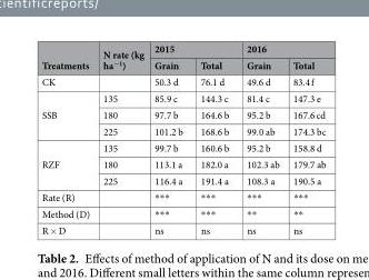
<table><thead><tr><td rowspan="2">Treatments</td><td rowspan="2">N rate (kg ha<sup>−1</sup>)</td><td colspan="2">2015</td><td colspan="2">2016</td></tr><tr><td>Grain</td><td>Total</td><td>Grain</td><td>Total</td></tr></thead><tbody><tr><td>CK</td><td></td><td>50.3 d</td><td>76.1 d</td><td>49.6 d</td><td>83.4 f</td></tr><tr><td rowspan="3">SSB</td><td>135</td><td>85.9 c</td><td>144.3 c</td><td>81.4 c</td><td>147.3 e</td></tr><tr><td>180</td><td>97.7 b</td><td>164.6 b</td><td>95.2 b</td><td>167.6 cd</td></tr><tr><td>225</td><td>101.2 b</td><td>168.6 b</td><td>99.0 ab</td><td>174.3 bc</td></tr><tr><td rowspan="3">RZF</td><td>135</td><td>99.7 b</td><td>160.6 b</td><td>95.2 b</td><td>158.8 d</td></tr><tr><td>180</td><td>113.1 a</td><td>182.0 a</td><td>102.3 ab</td><td>179.7 ab</td></tr><tr><td>225</td><td>116.4 a</td><td>191.4 a</td><td>108.3 a</td><td>190.5 a</td></tr><tr><td>Rate (R)</td><td></td><td>***</td><td>***</td><td>***</td><td>***</td></tr><tr><td>Method (D)</td><td></td><td>***</td><td>***</td><td>**</td><td>**</td></tr><tr><td>R × D</td><td></td><td>ns</td><td>ns</td><td>ns</td><td>ns</td></tr></tbody></table>